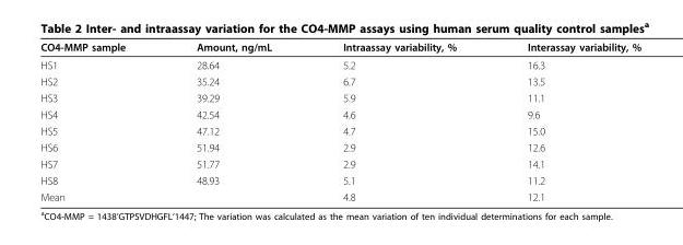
<table><thead><tr><td>CO4-MMP sample</td><td>Amount, ng/mL</td><td>Intraassay variability, %</td><td>Interassay variability, %</td></tr></thead><tbody><tr><td>HS1</td><td>28.64</td><td>5.2</td><td>16.3</td></tr><tr><td>HS2</td><td>35.24</td><td>6.7</td><td>13.5</td></tr><tr><td>HS3</td><td>39.29</td><td>5.9</td><td>11.1</td></tr><tr><td>HS4</td><td>42.54</td><td>4.6</td><td>9.6</td></tr><tr><td>HS5</td><td>47.12</td><td>4.7</td><td>15.0</td></tr><tr><td>HS6</td><td>51.94</td><td>2.9</td><td>12.6</td></tr><tr><td>HS7</td><td>51.77</td><td>2.9</td><td>14.1</td></tr><tr><td>HS8</td><td>48.93</td><td>5.1</td><td>11.2</td></tr><tr><td>Mean</td><td></td><td>4.8</td><td>12.1</td></tr></tbody></table>